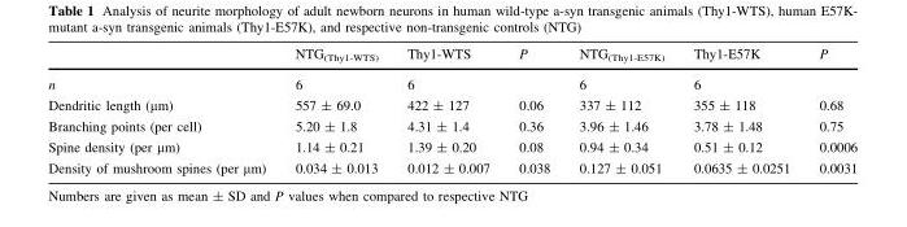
<table><thead><tr><td></td><td>NTG<sub>(Thy1-WTS)</sub></td><td>Thy1-WTS</td><td>P</td><td>NTG<sub>(Thy1-E57K)</sub></td><td>Thy1-E57K</td><td>P</td></tr></thead><tbody><tr><td>n</td><td>6</td><td>6</td><td></td><td>6</td><td>6</td><td></td></tr><tr><td>Dendritic length (µm)</td><td>557 ± 69.0</td><td>422 ± 127</td><td>0.06</td><td>337 ± 112</td><td>355 ± 118</td><td>0.68</td></tr><tr><td>Branching points (per cell)</td><td>5.20 ± 1.8</td><td>4.31 ± 1.4</td><td>0.36</td><td>3.96 ± 1.46</td><td>3.78 ± 1.48</td><td>0.75</td></tr><tr><td>Spine density (per µm)</td><td>1.14 ± 0.21</td><td>1.39 ± 0.20</td><td>0.08</td><td>0.94 ± 0.34</td><td>0.51 ± 0.12</td><td>0.0006</td></tr><tr><td>Density of mushroom spines (per µm)</td><td>0.034 ± 0.013</td><td>0.012 ± 0.007</td><td>0.038</td><td>0.127 ± 0.051</td><td>0.0635 ± 0.0251</td><td>0.0031</td></tr></tbody></table>